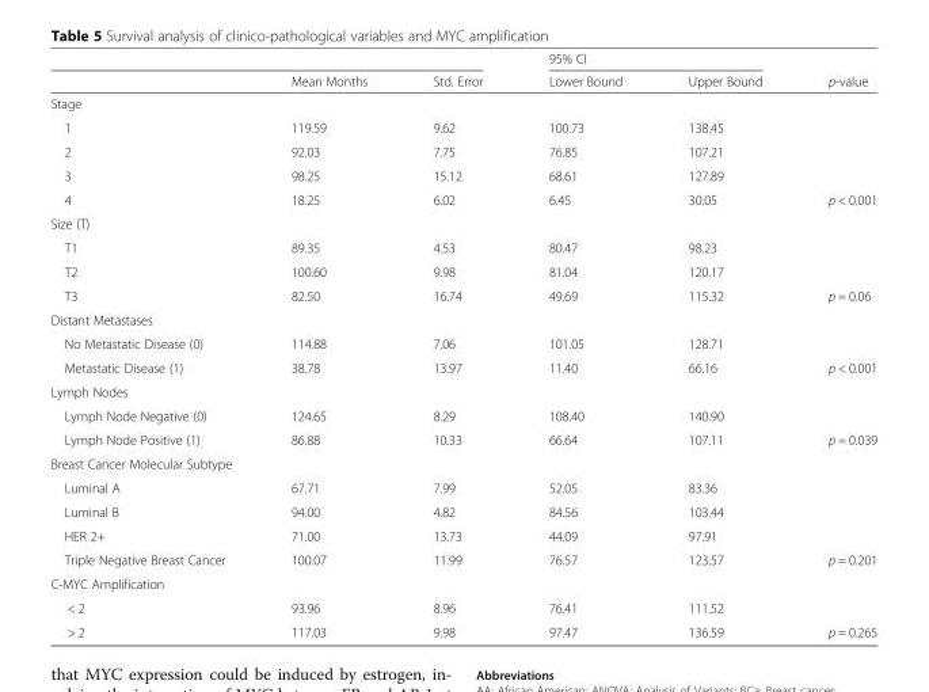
<table><thead><tr><td rowspan="2"></td><td rowspan="2">Mean Months</td><td rowspan="2">Std. Error</td><td colspan="2">95% CI</td><td rowspan="2">p-value</td></tr><tr><td>Lower Bound</td><td>Upper Bound</td></tr></thead><tbody><tr><td colspan="6">Stage</td></tr><tr><td>1</td><td>119.59</td><td>9.62</td><td>100.73</td><td>138.45</td><td></td></tr><tr><td>2</td><td>92.03</td><td>7.75</td><td>76.85</td><td>107.21</td><td></td></tr><tr><td>3</td><td>98.25</td><td>15.12</td><td>68.61</td><td>127.89</td><td></td></tr><tr><td>4</td><td>18.25</td><td>6.02</td><td>6.45</td><td>30.05</td><td>p &lt; 0.001</td></tr><tr><td colspan="6">Size (T)</td></tr><tr><td>T1</td><td>89.35</td><td>4.53</td><td>80.47</td><td>98.23</td><td></td></tr><tr><td>T2</td><td>100.60</td><td>9.98</td><td>81.04</td><td>120.17</td><td></td></tr><tr><td>T3</td><td>82.50</td><td>16.74</td><td>49.69</td><td>115.32</td><td>p = 0.06</td></tr><tr><td colspan="6">Distant Metastases</td></tr><tr><td>No Metastatic Disease (0)</td><td>114.88</td><td>7.06</td><td>101.05</td><td>128.71</td><td></td></tr><tr><td>Metastatic Disease (1)</td><td>38.78</td><td>13.97</td><td>11.40</td><td>66.16</td><td>p &lt; 0.001</td></tr><tr><td colspan="6">Lymph Nodes</td></tr><tr><td>Lymph Node Negative (0)</td><td>124.65</td><td>8.29</td><td>108.40</td><td>140.90</td><td></td></tr><tr><td>Lymph Node Positive (1)</td><td>86.88</td><td>10.33</td><td>66.64</td><td>107.11</td><td>p = 0.039</td></tr><tr><td colspan="6">Breast Cancer Molecular Subtype</td></tr><tr><td>Luminal A</td><td>67.71</td><td>7.99</td><td>52.05</td><td>83.36</td><td></td></tr><tr><td>Luminal B</td><td>94.00</td><td>4.82</td><td>84.56</td><td>103.44</td><td></td></tr><tr><td>HER 2+</td><td>71.00</td><td>13.73</td><td>44.09</td><td>97.91</td><td></td></tr><tr><td>Triple Negative Breast Cancer</td><td>100.07</td><td>11.99</td><td>76.57</td><td>123.57</td><td>p = 0.201</td></tr><tr><td colspan="6">C-MYC Amplification</td></tr><tr><td>&lt; 2</td><td>93.96</td><td>8.96</td><td>76.41</td><td>111.52</td><td></td></tr><tr><td>&gt; 2</td><td>117.03</td><td>9.98</td><td>97.47</td><td>136.59</td><td>p = 0.265</td></tr></tbody></table>